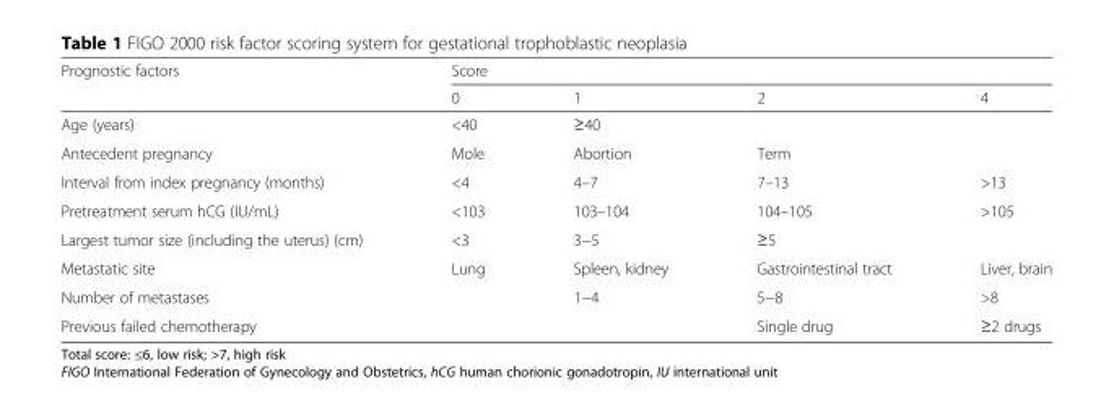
<table><thead><tr><td rowspan="2">Prognostic factors</td><td colspan="4">Score</td></tr><tr><td>0</td><td>1</td><td>2</td><td>4</td></tr></thead><tbody><tr><td>Age (years)</td><td>&lt;40</td><td>≥40</td><td></td><td></td></tr><tr><td>Antecedent pregnancy</td><td>Mole</td><td>Abortion</td><td>Term</td><td></td></tr><tr><td>Interval from index pregnancy (months)</td><td>&lt;4</td><td>4–7</td><td>7–13</td><td>&gt;13</td></tr><tr><td>Pretreatment serum hCG (IU/mL)</td><td>&lt;103</td><td>103–104</td><td>104–105</td><td>&gt;105</td></tr><tr><td>Largest tumor size (including the uterus) (cm)</td><td>&lt;3</td><td>3−5</td><td>≥5</td><td></td></tr><tr><td>Metastatic site</td><td>Lung</td><td>Spleen, kidney</td><td>Gastrointestinal tract</td><td>Liver, brain</td></tr><tr><td colspan="2">Number of metastases</td><td>1−4</td><td>5−8</td><td>&gt;8</td></tr><tr><td colspan="3">Previous failed chemotherapy</td><td>Single drug</td><td>≥2 drugs</td></tr></tbody></table>